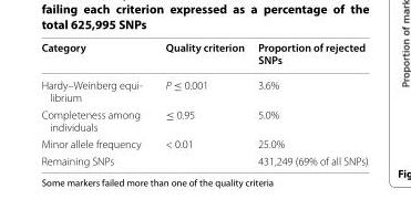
<table><thead><tr><td>Category</td><td>Quality criterion</td><td>Proportion of rejected SNPs</td></tr></thead><tbody><tr><td>Hardy–Weinberg equi- librium</td><td>P ≤ 0.001</td><td>3.6%</td></tr><tr><td>Completeness among individuals</td><td>≤ 0.95</td><td>5.0%</td></tr><tr><td>Minor allele frequency</td><td>&lt; 0.01</td><td>25.0%</td></tr><tr><td>Remaining SNPs</td><td></td><td>431,249 (69% of all SNPs)</td></tr></tbody></table>